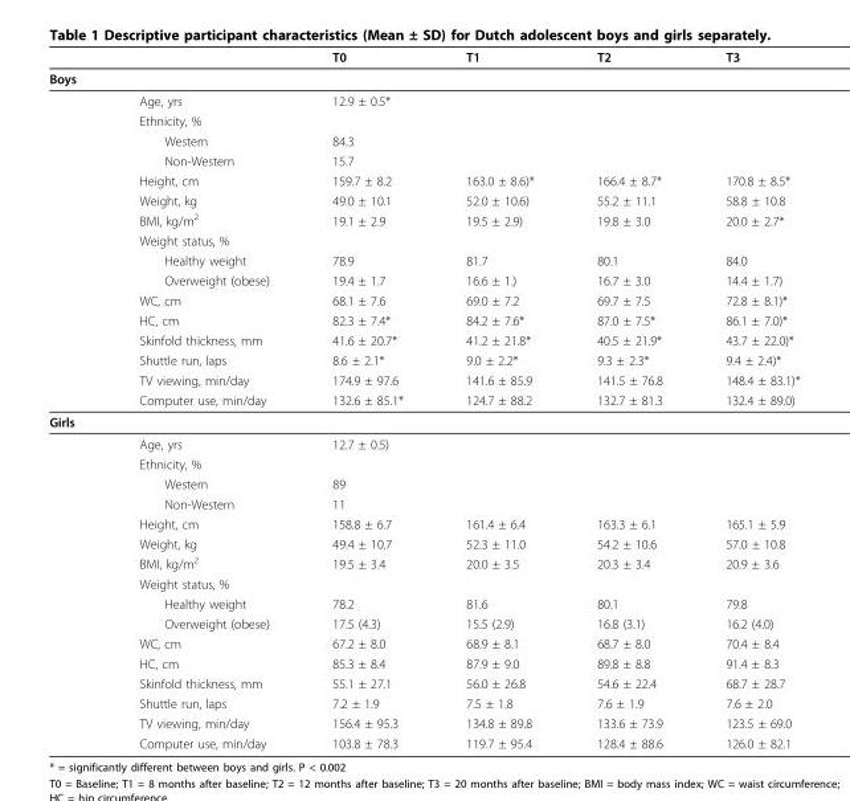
<table><thead><tr><td></td><td></td><td>T0</td><td>T1</td><td>T2</td><td>T3</td></tr></thead><tbody><tr><td colspan="6">Boys</td></tr><tr><td></td><td>Age, yrs</td><td>12.9 ± 0.5*</td><td></td><td></td><td></td></tr><tr><td></td><td>Ethnicity, %</td><td></td><td></td><td></td><td></td></tr><tr><td></td><td>Western</td><td>84.3</td><td></td><td></td><td></td></tr><tr><td></td><td>Non-Western</td><td>15.7</td><td></td><td></td><td></td></tr><tr><td></td><td>Height, cm</td><td>159.7 ± 8.2</td><td>163.0 ± 8.6)*</td><td>166.4 ± 8.7*</td><td>170.8 ± 8.5*</td></tr><tr><td></td><td>Weight, kg</td><td>49.0 ± 10.1</td><td>52.0 ± 10.6)</td><td>55.2 ± 11.1</td><td>58.8 ± 10.8</td></tr><tr><td></td><td>BMI, kg/m<sup>2</sup></td><td>19.1 ± 2.9</td><td>19.5 ± 2.9)</td><td>19.8 ± 3.0</td><td>20.0 ± 2.7*</td></tr><tr><td></td><td>Weight status, %</td><td></td><td></td><td></td><td></td></tr><tr><td></td><td>Healthy weight</td><td>78.9</td><td>81.7</td><td>80.1</td><td>84.0</td></tr><tr><td></td><td>Overweight (obese)</td><td>19.4 ± 1.7</td><td>16.6 ± 1.)</td><td>16.7 ± 3.0</td><td>14.4 ± 1.7)</td></tr><tr><td></td><td>WC, cm</td><td>68.1 ± 7.6</td><td>69.0 ± 7.2</td><td>69.7 ± 7.5</td><td>72.8 ± 8.1)*</td></tr><tr><td></td><td>HC, cm</td><td>82.3 ± 7.4*</td><td>84.2 ± 7.6*</td><td>87.0 ± 7.5*</td><td>86.1 ± 7.0)*</td></tr><tr><td></td><td>Skinfold thickness, mm</td><td>41.6 ± 20.7*</td><td>41.2 ± 21.8*</td><td>40.5 ± 21.9*</td><td>43.7 ± 22.0)*</td></tr><tr><td></td><td>Shuttle run, laps</td><td>8.6 ± 2.1*</td><td>9.0 ± 2.2*</td><td>9.3 ± 2.3*</td><td>9.4 ± 2.4)*</td></tr><tr><td></td><td>TV viewing, min/day</td><td>174.9 ± 97.6</td><td>141.6 ± 85.9</td><td>141.5 ± 76.8</td><td>148.4 ± 83.1)*</td></tr><tr><td></td><td>Computer use, min/day</td><td>132.6 ± 85.1*</td><td>124.7 ± 88.2</td><td>132.7 ± 81.3</td><td>132.4 ± 89.0)</td></tr><tr><td colspan="6">Girls</td></tr><tr><td></td><td>Age, yrs</td><td>12.7 ± 0.5)</td><td></td><td></td><td></td></tr><tr><td></td><td>Ethnicity, %</td><td></td><td></td><td></td><td></td></tr><tr><td></td><td>Western</td><td>89</td><td></td><td></td><td></td></tr><tr><td></td><td>Non-Western</td><td>11</td><td></td><td></td><td></td></tr><tr><td></td><td>Height, cm</td><td>158.8 ± 6.7</td><td>161.4 ± 6.4</td><td>163.3 ± 6.1</td><td>165.1 ± 5.9</td></tr><tr><td></td><td>Weight, kg</td><td>49.4 ± 10.7</td><td>52.3 ± 11.0</td><td>54.2 ± 10.6</td><td>57.0 ± 10.8</td></tr><tr><td></td><td>BMI, kg/m<sup>2</sup></td><td>19.5 ± 3.4</td><td>20.0 ± 3.5</td><td>20.3 ± 3.4</td><td>20.9 ± 3.6</td></tr><tr><td></td><td>Weight status, %</td><td></td><td></td><td></td><td></td></tr><tr><td></td><td>Healthy weight</td><td>78.2</td><td>81.6</td><td>80.1</td><td>79.8</td></tr><tr><td></td><td>Overweight (obese)</td><td>17.5 (4.3)</td><td>15.5 (2.9)</td><td>16.8 (3.1)</td><td>16.2 (4.0)</td></tr><tr><td></td><td>WC, cm</td><td>67.2 ± 8.0</td><td>68.9 ± 8.1</td><td>68.7 ± 8.0</td><td>70.4 ± 8.4</td></tr><tr><td></td><td>HC, cm</td><td>85.3 ± 8.4</td><td>87.9 ± 9.0</td><td>89.8 ± 8.8</td><td>91.4 ± 8.3</td></tr><tr><td></td><td>Skinfold thickness, mm</td><td>55.1 ± 27.1</td><td>56.0 ± 26.8</td><td>54.6 ± 22.4</td><td>68.7 ± 28.7</td></tr><tr><td></td><td>Shuttle run, laps</td><td>7.2 ± 1.9</td><td>7.5 ± 1.8</td><td>7.6 ± 1.9</td><td>7.6 ± 2.0</td></tr><tr><td></td><td>TV viewing, min/day</td><td>156.4 ± 95.3</td><td>134.8 ± 89.8</td><td>133.6 ± 73.9</td><td>123.5 ± 69.0</td></tr><tr><td></td><td>Computer use, min/day</td><td>103.8 ± 78.3</td><td>119.7 ± 95.4</td><td>128.4 ± 88.6</td><td>126.0 ± 82.1</td></tr></tbody></table>